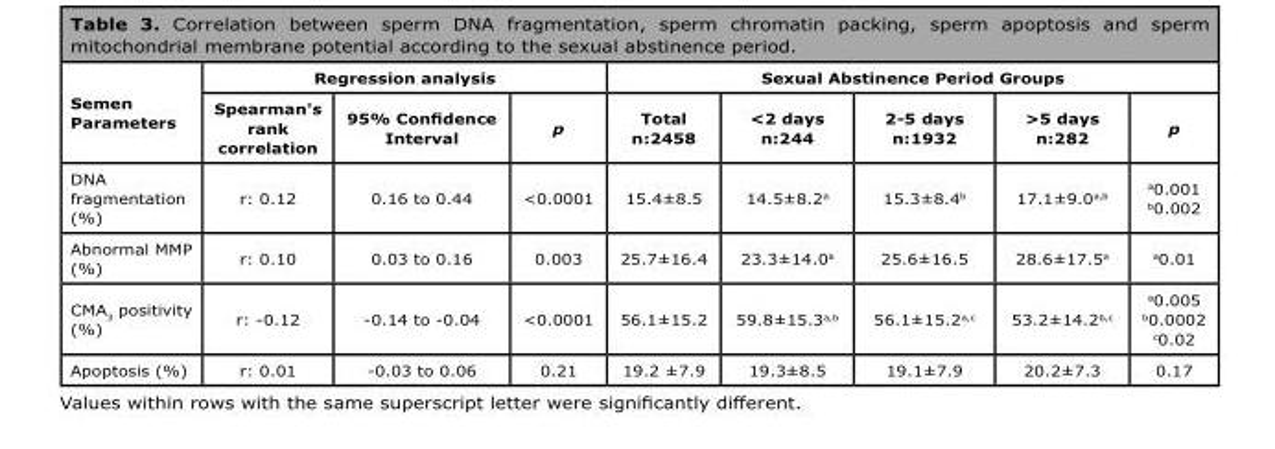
<table><thead><tr><td rowspan="2">Semen Parameters</td><td colspan="3">Regression analysis</td><td colspan="5">Sexual Abstinence Period Groups</td></tr><tr><td>Spearman&#x27;s rank correlation</td><td>95% Confidence Interval</td><td>p</td><td>Total n:2458</td><td>&lt;2 days n:244</td><td>2-5 days n:1932</td><td>&gt;5 days n:282</td><td>p</td></tr></thead><tbody><tr><td>DNA fragmentation (%)</td><td>r: 0.12</td><td>0.16 to 0.44</td><td>&lt;0.0001</td><td>15.4±8.5</td><td>14.5±8.2<sup>a</sup></td><td>15.3±8.4<sup>b</sup></td><td>17.1±9.0<sup>a,b</sup></td><td><sup>a</sup>0.001 <sup>b</sup>0.002</td></tr><tr><td>Abnormal MMP (%)</td><td>r: 0.10</td><td>0.03 to 0.16</td><td>0.003</td><td>25.7±16.4</td><td>23.3±14.0<sup>a</sup></td><td>25.6±16.5</td><td>28.6±17.5<sup>a</sup></td><td><sup>a</sup>0.01</td></tr><tr><td>CMA<sub>3</sub> positivity (%)</td><td>r: -0.12</td><td>-0.14 to -0.04</td><td>&lt;0.0001</td><td>56.1±15.2</td><td>59.8±15.3<sup>a,b</sup></td><td>56.1±15.2<sup>a,c</sup></td><td>53.2±14.2<sup>b,c</sup></td><td><sup>a</sup>0.005 <sup>b</sup>0.0002 <sup>c</sup>0.02</td></tr><tr><td>Apoptosis (%)</td><td>r: 0.01</td><td>-0.03 to 0.06</td><td>0.21</td><td>19.2 ±7.9</td><td>19.3±8.5</td><td>19.1±7.9</td><td>20.2±7.3</td><td>0.17</td></tr></tbody></table>